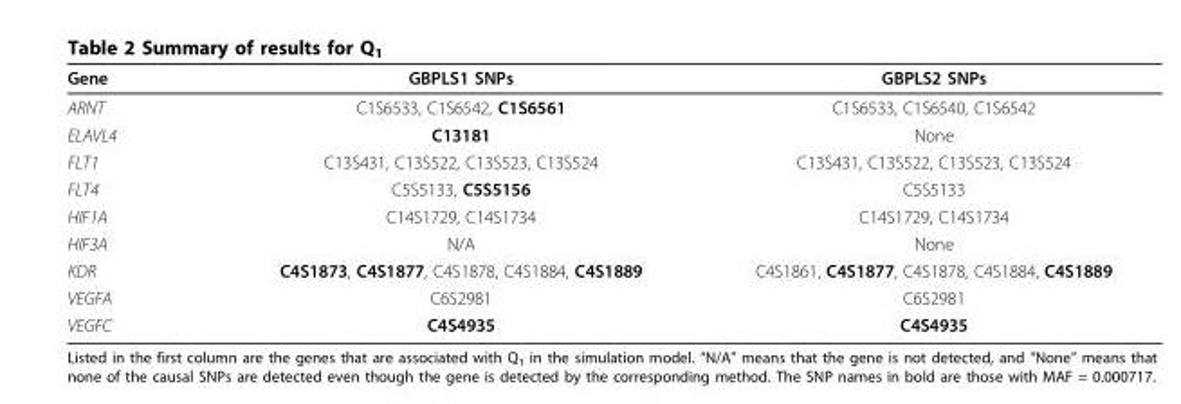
<table><thead><tr><td>Gene</td><td>GBPLS1 SNPs</td><td>GBPLS2 SNPs</td></tr></thead><tbody><tr><td>ARNT</td><td>C1S6533, C1S6542, C1S6561</td><td>C1S6533, C1S6540, C1S6542</td></tr><tr><td>ELAVL4</td><td>C13181</td><td>None</td></tr><tr><td>FLT1</td><td>C13S431, C13S522, C13S523, C13S524</td><td>C13S431, C13S522, C13S523, C13S524</td></tr><tr><td>FLT4</td><td>C5S5133, C5S5156</td><td>C5S5133</td></tr><tr><td>HIF1A</td><td>C14S1729, C14S1734</td><td>C14S1729, C14S1734</td></tr><tr><td>HIF3A</td><td>N/A</td><td>None</td></tr><tr><td>KDR</td><td>C4S1873, C4S1877, C4S1878, C4S1884, C4S1889</td><td>C4S1861, C4S1877, C4S1878, C4S1884, C4S1889</td></tr><tr><td>VEGFA</td><td>C6S2981</td><td>C6S2981</td></tr><tr><td>VEGFC</td><td>C4S4935</td><td>C4S4935</td></tr></tbody></table>